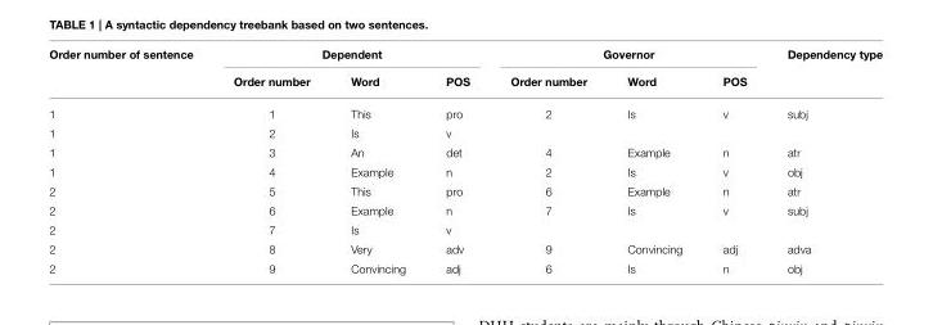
<table><thead><tr><td rowspan="2">Order number of sentence</td><td colspan="3">Dependent</td><td colspan="3">Governor</td><td rowspan="2">Dependency type</td></tr><tr><td>Order number</td><td>Word</td><td>POS</td><td>Order number</td><td>Word</td><td>POS</td></tr></thead><tbody><tr><td>1</td><td>1</td><td>This</td><td>pro</td><td>2</td><td>Is</td><td>v</td><td>subj</td></tr><tr><td>1</td><td>2</td><td>Is</td><td>v</td><td></td><td></td><td></td><td></td></tr><tr><td>1</td><td>3</td><td>An</td><td>det</td><td>4</td><td>Example</td><td>n</td><td>atr</td></tr><tr><td>1</td><td>4</td><td>Example</td><td>n</td><td>2</td><td>Is</td><td>v</td><td>obj</td></tr><tr><td>2</td><td>5</td><td>This</td><td>pro</td><td>6</td><td>Example</td><td>n</td><td>atr</td></tr><tr><td>2</td><td>6</td><td>Example</td><td>n</td><td>7</td><td>Is</td><td>v</td><td>subj</td></tr><tr><td>2</td><td>7</td><td>Is</td><td>v</td><td></td><td></td><td></td><td></td></tr><tr><td>2</td><td>8</td><td>Very</td><td>adv</td><td>9</td><td>Convincing</td><td>adj</td><td>adva</td></tr><tr><td>2</td><td>9</td><td>Convincing</td><td>adj</td><td>6</td><td>Is</td><td>n</td><td>obj</td></tr></tbody></table>